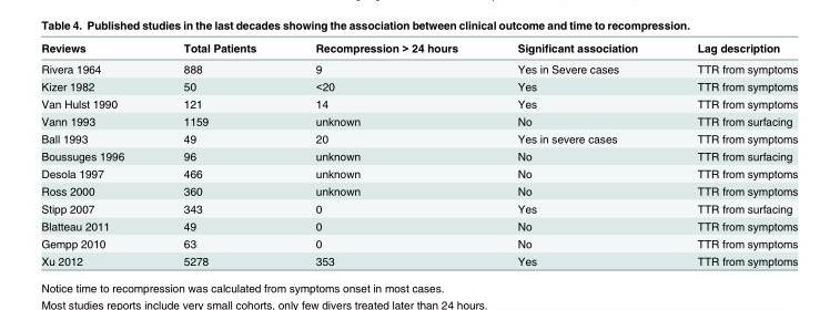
<table><thead><tr><td>Reviews</td><td>Total Patients</td><td>Recompression &gt; 24 hours</td><td>Significant association</td><td>Lag description</td></tr></thead><tbody><tr><td>Rivera 1964</td><td>888</td><td>9</td><td>Yes in Severe cases</td><td>TTR from symptoms</td></tr><tr><td>Kizer 1982</td><td>50</td><td>&lt;20</td><td>Yes</td><td>TTR from symptoms</td></tr><tr><td>Van Hulst 1990</td><td>121</td><td>14</td><td>Yes</td><td>TTR from symptoms</td></tr><tr><td>Vann 1993</td><td>1159</td><td>unknown</td><td>No</td><td>TTR from surfacing</td></tr><tr><td>Ball 1993</td><td>49</td><td>20</td><td>Yes in severe cases</td><td>TTR from symptoms</td></tr><tr><td>Boussuges 1996</td><td>96</td><td>unknown</td><td>No</td><td>TTR from surfacing</td></tr><tr><td>Desola 1997</td><td>466</td><td>unknown</td><td>No</td><td>TTR from symptoms</td></tr><tr><td>Ross 2000</td><td>360</td><td>unknown</td><td>No</td><td>TTR from symptoms</td></tr><tr><td>Stipp 2007</td><td>343</td><td>0</td><td>Yes</td><td>TTR from surfacing</td></tr><tr><td>Blatteau 2011</td><td>49</td><td>0</td><td>No</td><td>TTR from symptoms</td></tr><tr><td>Gempp 2010</td><td>63</td><td>0</td><td>No</td><td>TTR from symptoms</td></tr><tr><td>Xu 2012</td><td>5278</td><td>353</td><td>Yes</td><td>TTR from symptoms</td></tr></tbody></table>